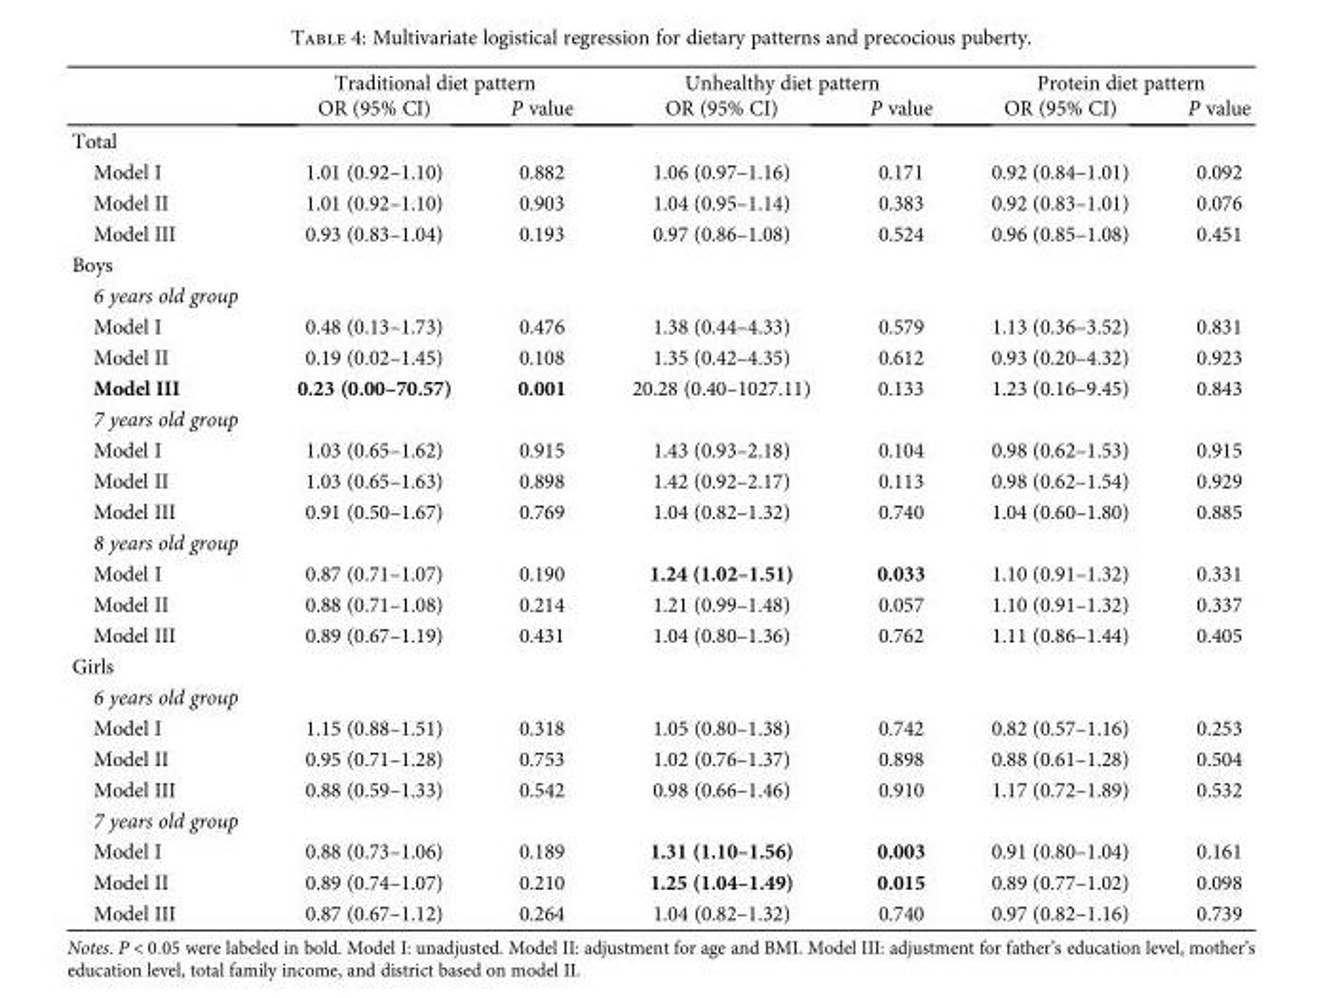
<table><thead><tr><td rowspan="2"></td><td colspan="2">Traditional diet pattern</td><td colspan="2">Unhealthy diet pattern</td><td colspan="2">Protein diet pattern</td></tr><tr><td>OR (95% CI)</td><td>P value</td><td>OR (95% CI)</td><td>P value</td><td>OR (95% CI)</td><td>P value</td></tr></thead><tbody><tr><td colspan="7">Total</td></tr><tr><td>Model I</td><td>1.01 (0.92–1.10)</td><td>0.882</td><td>1.06 (0.97–1.16)</td><td>0.171</td><td>0.92 (0.84–1.01)</td><td>0.092</td></tr><tr><td>Model II</td><td>1.01 (0.92–1.10)</td><td>0.903</td><td>1.04 (0.95–1.14)</td><td>0.383</td><td>0.92 (0.83–1.01)</td><td>0.076</td></tr><tr><td>Model III</td><td>0.93 (0.83–1.04)</td><td>0.193</td><td>0.97 (0.86–1.08)</td><td>0.524</td><td>0.96 (0.85–1.08)</td><td>0.451</td></tr><tr><td colspan="7">Boys</td></tr><tr><td colspan="7">6 years old group</td></tr><tr><td>Model I</td><td>0.48 (0.13–1.73)</td><td>0.476</td><td>1.38 (0.44–4.33)</td><td>0.579</td><td>1.13 (0.36–3.52)</td><td>0.831</td></tr><tr><td>Model II</td><td>0.19 (0.02–1.45)</td><td>0.108</td><td>1.35 (0.42–4.35)</td><td>0.612</td><td>0.93 (0.20–4.32)</td><td>0.923</td></tr><tr><td>Model III</td><td>0.23 (0.00–70.57)</td><td>0.001</td><td>20.28 (0.40–1027.11)</td><td>0.133</td><td>1.23 (0.16–9.45)</td><td>0.843</td></tr><tr><td colspan="7">7 years old group</td></tr><tr><td>Model I</td><td>1.03 (0.65–1.62)</td><td>0.915</td><td>1.43 (0.93–2.18)</td><td>0.104</td><td>0.98 (0.62–1.53)</td><td>0.915</td></tr><tr><td>Model II</td><td>1.03 (0.65–1.63)</td><td>0.898</td><td>1.42 (0.92–2.17)</td><td>0.113</td><td>0.98 (0.62–1.54)</td><td>0.929</td></tr><tr><td>Model III</td><td>0.91 (0.50–1.67)</td><td>0.769</td><td>1.04 (0.82–1.32)</td><td>0.740</td><td>1.04 (0.60–1.80)</td><td>0.885</td></tr><tr><td colspan="7">8 years old group</td></tr><tr><td>Model I</td><td>0.87 (0.71–1.07)</td><td>0.190</td><td>1.24 (1.02–1.51)</td><td>0.033</td><td>1.10 (0.91–1.32)</td><td>0.331</td></tr><tr><td>Model II</td><td>0.88 (0.71–1.08)</td><td>0.214</td><td>1.21 (0.99–1.48)</td><td>0.057</td><td>1.10 (0.91–1.32)</td><td>0.337</td></tr><tr><td>Model III</td><td>0.89 (0.67–1.19)</td><td>0.431</td><td>1.04 (0.80–1.36)</td><td>0.762</td><td>1.11 (0.86–1.44)</td><td>0.405</td></tr><tr><td colspan="7">Girls</td></tr><tr><td colspan="7">6 years old group</td></tr><tr><td>Model I</td><td>1.15 (0.88–1.51)</td><td>0.318</td><td>1.05 (0.80–1.38)</td><td>0.742</td><td>0.82 (0.57–1.16)</td><td>0.253</td></tr><tr><td>Model II</td><td>0.95 (0.71–1.28)</td><td>0.753</td><td>1.02 (0.76–1.37)</td><td>0.898</td><td>0.88 (0.61–1.28)</td><td>0.504</td></tr><tr><td>Model III</td><td>0.88 (0.59–1.33)</td><td>0.542</td><td>0.98 (0.66–1.46)</td><td>0.910</td><td>1.17 (0.72–1.89)</td><td>0.532</td></tr><tr><td colspan="7">7 years old group</td></tr><tr><td>Model I</td><td>0.88 (0.73–1.06)</td><td>0.189</td><td>1.31 (1.10–1.56)</td><td>0.003</td><td>0.91 (0.80–1.04)</td><td>0.161</td></tr><tr><td>Model II</td><td>0.89 (0.74–1.07)</td><td>0.210</td><td>1.25 (1.04–1.49)</td><td>0.015</td><td>0.89 (0.77–1.02)</td><td>0.098</td></tr><tr><td>Model III</td><td>0.87 (0.67–1.12)</td><td>0.264</td><td>1.04 (0.82–1.32)</td><td>0.740</td><td>0.97 (0.82–1.16)</td><td>0.739</td></tr></tbody></table>